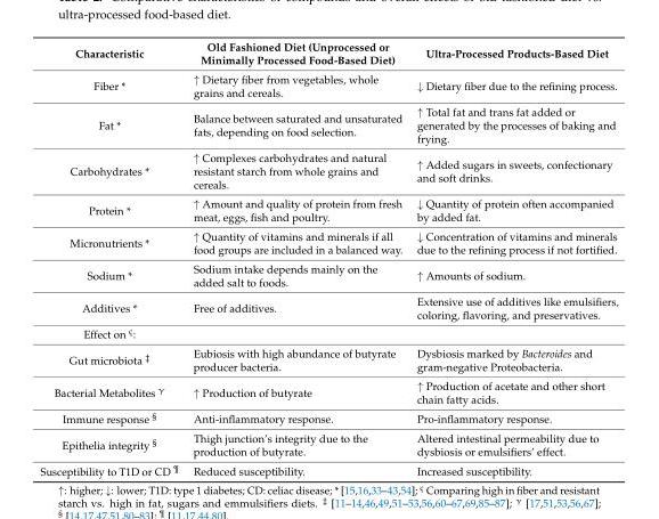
<table><thead><tr><td>Characteristic</td><td>Old Fashioned Diet (Unprocessed or Minimally Processed Food-Based Diet)</td><td>Ultra-Processed Products-Based Diet</td></tr></thead><tbody><tr><td>Fiber *</td><td>↑ Dietary fiber from vegetables, whole grains and cereals.</td><td>↓ Dietary fiber due to the refining process.</td></tr><tr><td>Fat *</td><td>Balance between saturated and unsaturated fats, depending on food selection.</td><td>↑ Total fat and trans fat added or generated by the processes of baking and frying.</td></tr><tr><td>Carbohydrates *</td><td>↑ Complexes carbohydrates and natural resistant starch from whole grains and cereals.</td><td>↑ Added sugars in sweets, confectionary and soft drinks.</td></tr><tr><td>Protein *</td><td>↑ Amount and quality of protein from fresh meat, eggs, fish and poultry.</td><td>↓ Quantity of protein often accompanied by added fat.</td></tr><tr><td>Micronutrients *</td><td>↑ Quantity of vitamins and minerals if all food groups are included in a balanced way.</td><td>↓ Concentration of vitamins and minerals due to the refining process if not fortified.</td></tr><tr><td>Sodium *</td><td>Sodium intake depends mainly on the added salt to foods.</td><td>↑ Amounts of sodium.</td></tr><tr><td>Additives *</td><td>Free of additives.</td><td>Extensive use of additives like emulsifiers, coloring, flavoring, and preservatives.</td></tr><tr><td colspan="3">Effect on <sup>ç</sup>:</td></tr><tr><td>Gut microbiota <sup>‡</sup></td><td>Eubiosis with high abundance of butyrate producer bacteria.</td><td>Dysbiosis marked by Bacteroides and gram-negative Proteobacteria.</td></tr><tr><td>Bacterial Metabolites <sup>γ</sup></td><td>↑ Production of butyrate</td><td>↑ Production of acetate and other short chain fatty acids.</td></tr><tr><td>Immune response <sup>§</sup></td><td>Anti-inflammatory response.</td><td>Pro-inflammatory response.</td></tr><tr><td>Epithelia integrity <sup>§</sup></td><td>Thigh junction’s integrity due to the production of butyrate.</td><td>Altered intestinal permeability due to dysbiosis or emulsifiers’ effect.</td></tr><tr><td>Susceptibility to T1D or CD <sup>¶</sup></td><td>Reduced susceptibility.</td><td>Increased susceptibility.</td></tr></tbody></table>